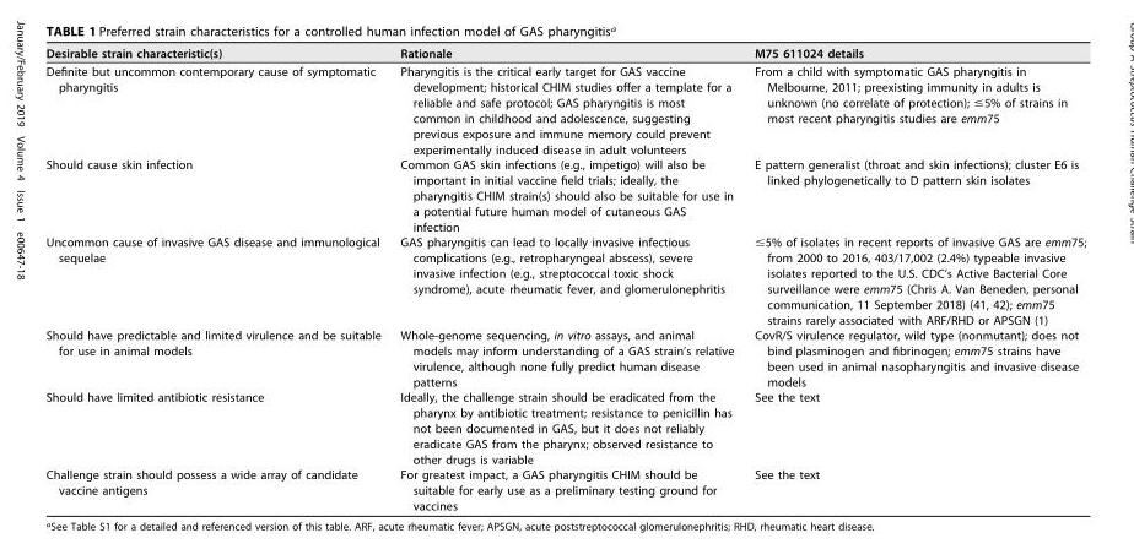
<table><thead><tr><td>Desirable strain characteristic(s)</td><td>Rationale</td><td>M75 611024 details</td></tr></thead><tbody><tr><td>Definite but uncommon contemporary cause of symptomatic pharyngitis</td><td>Pharyngitis is the critical early target for GAS vaccine development; historical CHIM studies offer a template for a reliable and safe protocol; GAS pharyngitis is most common in childhood and adolescence, suggesting previous exposure and immune memory could prevent experimentally induced disease in adult volunteers</td><td>From a child with symptomatic GAS pharyngitis in Melbourne, 2011; preexisting immunity in adults is unknown (no correlate of protection); ≤5% of strains in most recent pharyngitis studies are emm75</td></tr><tr><td>Should cause skin infection</td><td>Common GAS skin infections (e.g., impetigo) will also be important in initial vaccine field trials; ideally, the pharyngitis CHIM strain(s) should also be suitable for use in a potential future human model of cutaneous GAS infection</td><td>E pattern generalist (throat and skin infections); cluster E6 is linked phylogenetically to D pattern skin isolates</td></tr><tr><td>Uncommon cause of invasive GAS disease and immunological sequelae</td><td>GAS pharyngitis can lead to locally invasive infectious complications (e.g., retropharyngeal abscess), severe invasive infection (e.g., streptococcal toxic shock syndrome), acute rheumatic fever, and glomerulonephritis</td><td>≤5% of isolates in recent reports of invasive GAS are emm75; from 2000 to 2016, 403/17,002 (2.4%) typeable invasive isolates reported to the U.S. CDC’s Active Bacterial Core surveillance were emm75 (Chris A. Van Beneden, personal communication, 11 September 2018) (41, 42); emm75 strains rarely associated with ARF/RHD or APSGN (1)</td></tr><tr><td>Should have predictable and limited virulence and be suitable for use in animal models</td><td>Whole-genome sequencing, in vitro assays, and animal models may inform understanding of a GAS strain’s relative virulence, although none fully predict human disease patterns</td><td>CovR/S virulence regulator, wild type (nonmutant); does not bind plasminogen and fibrinogen; emm75 strains have been used in animal nasopharyngitis and invasive disease models</td></tr><tr><td>Should have limited antibiotic resistance</td><td>Ideally, the challenge strain should be eradicated from the pharynx by antibiotic treatment; resistance to penicillin has not been documented in GAS, but it does not reliably eradicate GAS from the pharynx; observed resistance to other drugs is variable</td><td>See the text</td></tr><tr><td>Challenge strain should possess a wide array of candidate vaccine antigens</td><td>For greatest impact, a GAS pharyngitis CHIM should be suitable for early use as a preliminary testing ground for vaccines</td><td>See the text</td></tr></tbody></table>